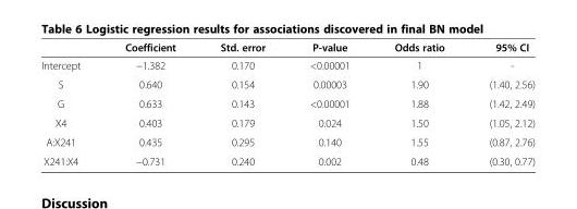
<table><thead><tr><td></td><td>Coefficient</td><td>Std. error</td><td>P-value</td><td>Odds ratio</td><td>95% CI</td></tr></thead><tbody><tr><td>Intercept</td><td>−1.382</td><td>0.170</td><td>&lt;0.00001</td><td>1</td><td>-</td></tr><tr><td>S</td><td>0.640</td><td>0.154</td><td>0.00003</td><td>1.90</td><td>(1.40, 2.56)</td></tr><tr><td>G</td><td>0.633</td><td>0.143</td><td>&lt;0.00001</td><td>1.88</td><td>(1.42, 2.49)</td></tr><tr><td>X4</td><td>0.403</td><td>0.179</td><td>0.024</td><td>1.50</td><td>(1.05, 2.12)</td></tr><tr><td>A:X241</td><td>0.435</td><td>0.295</td><td>0.140</td><td>1.55</td><td>(0.87, 2.76)</td></tr><tr><td>X241:X4</td><td>−0.731</td><td>0.240</td><td>0.002</td><td>0.48</td><td>(0.30, 0.77)</td></tr></tbody></table>